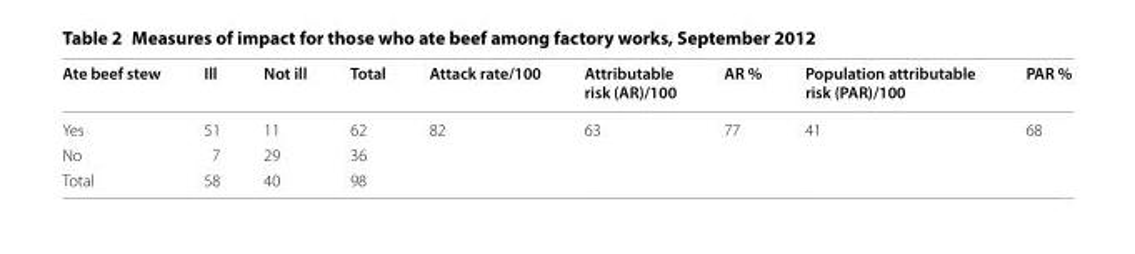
<table><thead><tr><td>Ate beef stew</td><td>Ill</td><td>Not ill</td><td>Total</td><td>Attack rate/100</td><td>Attributable risk (AR)/100</td><td>AR %</td><td>Population attributable risk (PAR)/100</td><td>PAR %</td></tr></thead><tbody><tr><td>Yes</td><td>51</td><td>11</td><td>62</td><td>82</td><td>63</td><td>77</td><td>41</td><td>68</td></tr><tr><td>No</td><td>7</td><td>29</td><td>36</td><td></td><td></td><td></td><td></td><td></td></tr><tr><td>Total</td><td>58</td><td>40</td><td>98</td><td></td><td></td><td></td><td></td><td></td></tr></tbody></table>